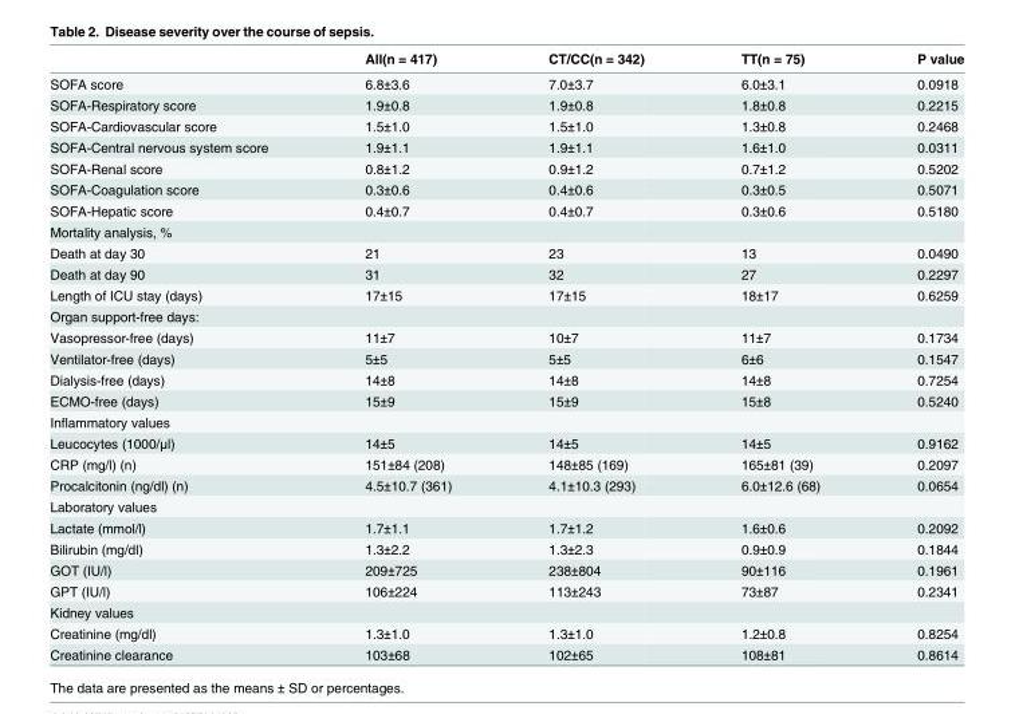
<table><thead><tr><td></td><td>All(n = 417)</td><td>CT/CC(n = 342)</td><td>TT(n = 75)</td><td>P value</td></tr></thead><tbody><tr><td>SOFA score</td><td>6.8±3.6</td><td>7.0±3.7</td><td>6.0±3.1</td><td>0.0918</td></tr><tr><td>SOFA-Respiratory score</td><td>1.9±0.8</td><td>1.9±0.8</td><td>1.8±0.8</td><td>0.2215</td></tr><tr><td>SOFA-Cardiovascular score</td><td>1.5±1.0</td><td>1.5±1.0</td><td>1.3±0.8</td><td>0.2468</td></tr><tr><td>SOFA-Central nervous system score</td><td>1.9±1.1</td><td>1.9±1.1</td><td>1.6±1.0</td><td>0.0311</td></tr><tr><td>SOFA-Renal score</td><td>0.8±1.2</td><td>0.9±1.2</td><td>0.7±1.2</td><td>0.5202</td></tr><tr><td>SOFA-Coagulation score</td><td>0.3±0.6</td><td>0.4±0.6</td><td>0.3±0.5</td><td>0.5071</td></tr><tr><td>SOFA-Hepatic score</td><td>0.4±0.7</td><td>0.4±0.7</td><td>0.3±0.6</td><td>0.5180</td></tr><tr><td colspan="5">Mortality analysis, %</td></tr><tr><td>Death at day 30</td><td>21</td><td>23</td><td>13</td><td>0.0490</td></tr><tr><td>Death at day 90</td><td>31</td><td>32</td><td>27</td><td>0.2297</td></tr><tr><td>Length of ICU stay (days)</td><td>17±15</td><td>17±15</td><td>18±17</td><td>0.6259</td></tr><tr><td colspan="5">Organ support-free days:</td></tr><tr><td>Vasopressor-free (days)</td><td>11±7</td><td>10±7</td><td>11±7</td><td>0.1734</td></tr><tr><td>Ventilator-free (days)</td><td>5±5</td><td>5±5</td><td>6±6</td><td>0.1547</td></tr><tr><td>Dialysis-free (days)</td><td>14±8</td><td>14±8</td><td>14±8</td><td>0.7254</td></tr><tr><td>ECMO-free (days)</td><td>15±9</td><td>15±9</td><td>15±8</td><td>0.5240</td></tr><tr><td colspan="5">Inflammatory values</td></tr><tr><td>Leucocytes (1000/μl)</td><td>14±5</td><td>14±5</td><td>14±5</td><td>0.9162</td></tr><tr><td>CRP (mg/l) (n)</td><td>151±84 (208)</td><td>148±85 (169)</td><td>165±81 (39)</td><td>0.2097</td></tr><tr><td>Procalcitonin (ng/dl) (n)</td><td>4.5±10.7 (361)</td><td>4.1±10.3 (293)</td><td>6.0±12.6 (68)</td><td>0.0654</td></tr><tr><td colspan="5">Laboratory values</td></tr><tr><td>Lactate (mmol/l)</td><td>1.7±1.1</td><td>1.7±1.2</td><td>1.6±0.6</td><td>0.2092</td></tr><tr><td>Bilirubin (mg/dl)</td><td>1.3±2.2</td><td>1.3±2.3</td><td>0.9±0.9</td><td>0.1844</td></tr><tr><td>GOT (IU/l)</td><td>209±725</td><td>238±804</td><td>90±116</td><td>0.1961</td></tr><tr><td>GPT (IU/l)</td><td>106±224</td><td>113±243</td><td>73±87</td><td>0.2341</td></tr><tr><td colspan="5">Kidney values</td></tr><tr><td>Creatinine (mg/dl)</td><td>1.3±1.0</td><td>1.3±1.0</td><td>1.2±0.8</td><td>0.8254</td></tr><tr><td>Creatinine clearance</td><td>103±68</td><td>102±65</td><td>108±81</td><td>0.8614</td></tr></tbody></table>